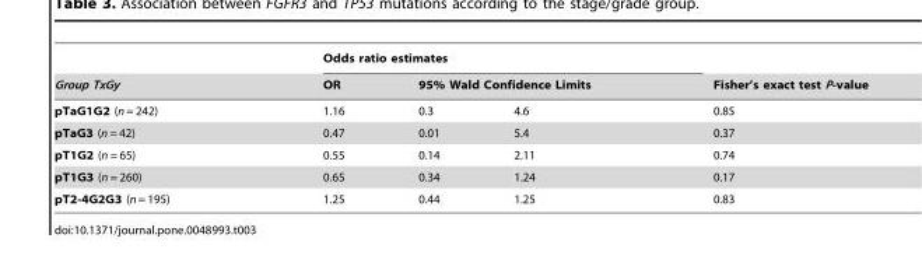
<table><thead><tr><td rowspan="3">Group TxGy pTaG1G2 (n = 242)</td><td colspan="3">Odds ratio estimates</td><td rowspan="3">Fisher’s exact test P-value 0.85</td></tr><tr><td rowspan="2">OR 1.16</td><td colspan="2">95% Wald Confidence Limits</td></tr><tr><td>0.3</td><td>4.6</td></tr></thead><tbody><tr><td>pTaG3 (n = 42)</td><td>0.47</td><td>0.01</td><td>5.4</td><td>0.37</td></tr><tr><td>pT1G2 (n = 65)</td><td>0.55</td><td>0.14</td><td>2.11</td><td>0.74</td></tr><tr><td>pT1G3 (n = 260)</td><td>0.65</td><td>0.34</td><td>1.24</td><td>0.17</td></tr><tr><td>pT2-4G2G3 (n = 195)</td><td>1.25</td><td>0.44</td><td>1.25</td><td>0.83</td></tr></tbody></table>